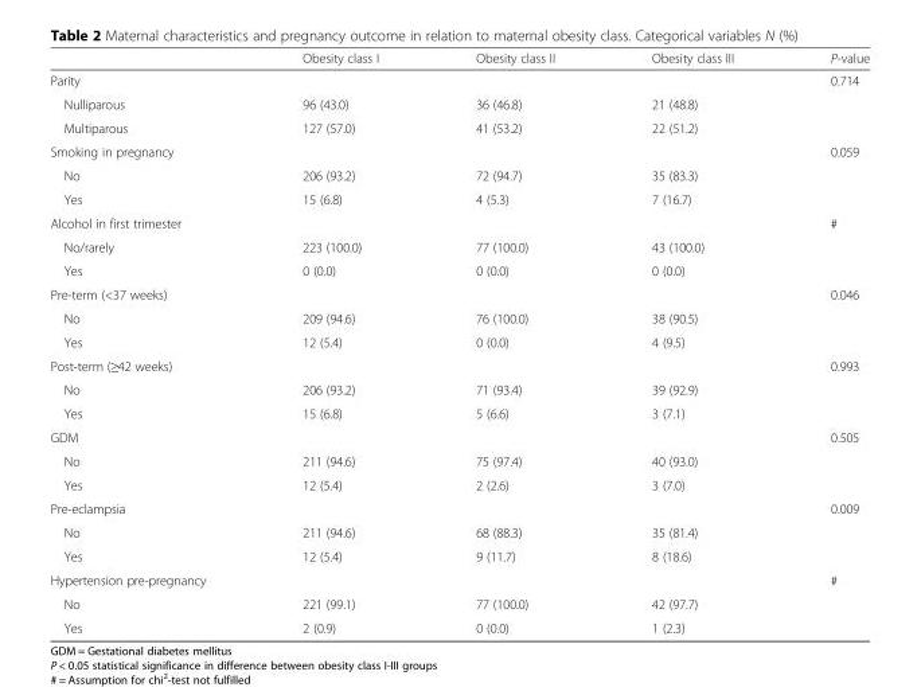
<table><thead><tr><td></td><td>Obesity class I</td><td>Obesity class II</td><td>Obesity class III</td><td>P-value</td></tr></thead><tbody><tr><td>Parity</td><td></td><td></td><td></td><td>0.714</td></tr><tr><td>Nulliparous</td><td>96 (43.0)</td><td>36 (46.8)</td><td>21 (48.8)</td><td></td></tr><tr><td>Multiparous</td><td>127 (57.0)</td><td>41 (53.2)</td><td>22 (51.2)</td><td></td></tr><tr><td>Smoking in pregnancy</td><td></td><td></td><td></td><td>0.059</td></tr><tr><td>No</td><td>206 (93.2)</td><td>72 (94.7)</td><td>35 (83.3)</td><td></td></tr><tr><td>Yes</td><td>15 (6.8)</td><td>4 (5.3)</td><td>7 (16.7)</td><td></td></tr><tr><td>Alcohol in first trimester</td><td></td><td></td><td></td><td>#</td></tr><tr><td>No/rarely</td><td>223 (100.0)</td><td>77 (100.0)</td><td>43 (100.0)</td><td></td></tr><tr><td>Yes</td><td>0 (0.0)</td><td>0 (0.0)</td><td>0 (0.0)</td><td></td></tr><tr><td>Pre-term (&lt;37 weeks)</td><td></td><td></td><td></td><td>0.046</td></tr><tr><td>No</td><td>209 (94.6)</td><td>76 (100.0)</td><td>38 (90.5)</td><td></td></tr><tr><td>Yes</td><td>12 (5.4)</td><td>0 (0.0)</td><td>4 (9.5)</td><td></td></tr><tr><td>Post-term (≥42 weeks)</td><td></td><td></td><td></td><td>0.993</td></tr><tr><td>No</td><td>206 (93.2)</td><td>71 (93.4)</td><td>39 (92.9)</td><td></td></tr><tr><td>Yes</td><td>15 (6.8)</td><td>5 (6.6)</td><td>3 (7.1)</td><td></td></tr><tr><td>GDM</td><td></td><td></td><td></td><td>0.505</td></tr><tr><td>No</td><td>211 (94.6)</td><td>75 (97.4)</td><td>40 (93.0)</td><td></td></tr><tr><td>Yes</td><td>12 (5.4)</td><td>2 (2.6)</td><td>3 (7.0)</td><td></td></tr><tr><td>Pre-eclampsia</td><td></td><td></td><td></td><td>0.009</td></tr><tr><td>No</td><td>211 (94.6)</td><td>68 (88.3)</td><td>35 (81.4)</td><td></td></tr><tr><td>Yes</td><td>12 (5.4)</td><td>9 (11.7)</td><td>8 (18.6)</td><td></td></tr><tr><td>Hypertension pre-pregnancy</td><td></td><td></td><td></td><td>#</td></tr><tr><td>No</td><td>221 (99.1)</td><td>77 (100.0)</td><td>42 (97.7)</td><td></td></tr><tr><td>Yes</td><td>2 (0.9)</td><td>0 (0.0)</td><td>1 (2.3)</td><td></td></tr></tbody></table>